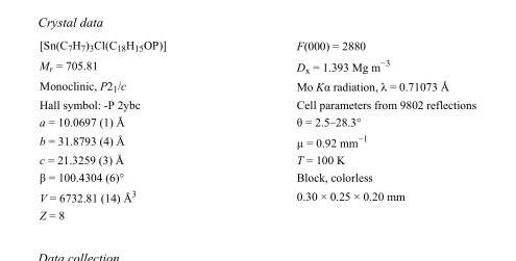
<table><tbody><tr><td>[Sn(C<sub>7</sub>H<sub>7</sub>)<sub>3</sub>Cl(C<sub>18</sub>H<sub>15</sub>OP)]</td><td>F(000) = 2880</td></tr><tr><td>M<sub>r</sub> = 705.81</td><td>D<sub>x</sub> = 1.393 Mg m<sup>−3</sup></td></tr><tr><td>Monoclinic, P2<sub>1</sub>/c</td><td>Mo Kα radiation, λ = 0.71073 Å</td></tr><tr><td>Hall symbol: -P 2ybc</td><td>Cell parameters from 9802 reflections</td></tr><tr><td>a = 10.0697 (1) Å</td><td>θ = 2.5–28.3°</td></tr><tr><td>b = 31.8793 (4) Å</td><td>µ = 0.92 mm<sup>−1</sup></td></tr><tr><td>c = 21.3259 (3) Å</td><td>T = 100 K</td></tr><tr><td>β = 100.4304 (6)°</td><td>Block, colorless</td></tr><tr><td>V = 6732.81 (14) Å<sup>3</sup></td><td>0.30 × 0.25 × 0.20 mm</td></tr><tr><td>Z = 8</td><td></td></tr></tbody></table>